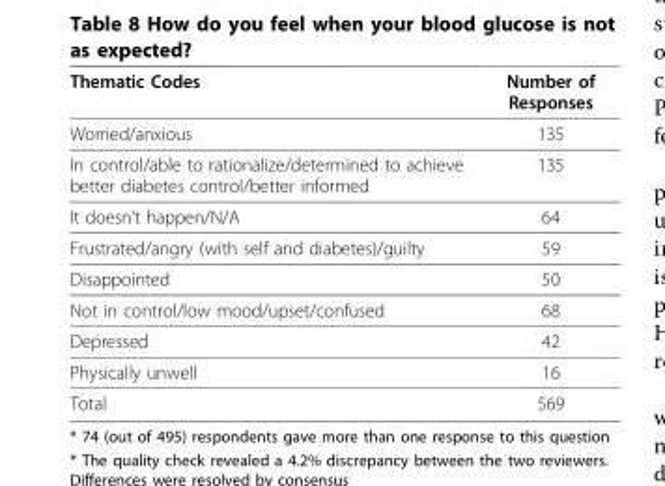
<table><thead><tr><td>Thematic Codes</td><td>Number of Responses</td></tr></thead><tbody><tr><td>Worried/anxious</td><td>135</td></tr><tr><td>In control/able to rationalize/determined to achieve better diabetes control/better informed</td><td>135</td></tr><tr><td>It doesn’t happen/N/A</td><td>64</td></tr><tr><td>Frustrated/angry (with self and diabetes)/guilty</td><td>59</td></tr><tr><td>Disappointed</td><td>50</td></tr><tr><td>Not in control/low mood/upset/confused</td><td>68</td></tr><tr><td>Depressed</td><td>42</td></tr><tr><td>Physically unwell</td><td>16</td></tr><tr><td>Total</td><td>569</td></tr></tbody></table>